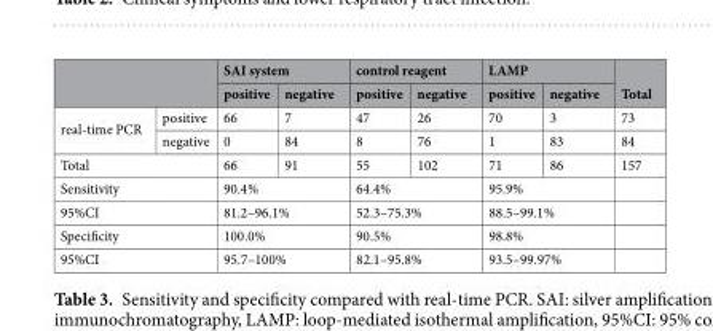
<table><thead><tr><td rowspan="2"></td><td rowspan="2"></td><td colspan="2">SAI system</td><td colspan="2">control reagent</td><td colspan="2">LAMP</td><td rowspan="2">Total</td></tr><tr><td>positive</td><td>negative</td><td>positive</td><td>negative</td><td>positive</td><td>negative</td></tr></thead><tbody><tr><td rowspan="2">real-time PCR</td><td>positive</td><td>66</td><td>7</td><td>47</td><td>26</td><td>70</td><td>3</td><td>73</td></tr><tr><td>negative</td><td>0</td><td>84</td><td>8</td><td>76</td><td>1</td><td>83</td><td>84</td></tr><tr><td colspan="2">Total</td><td>66</td><td>91</td><td>55</td><td>102</td><td>71</td><td>86</td><td>157</td></tr><tr><td colspan="2">Sensitivity</td><td colspan="2">90.4%</td><td colspan="2">64.4%</td><td colspan="2">95.9%</td><td></td></tr><tr><td colspan="2">95%CI</td><td colspan="2">81.2–96.1%</td><td colspan="2">52.3–75.3%</td><td colspan="2">88.5–99.1%</td><td></td></tr><tr><td colspan="2">Specificity</td><td colspan="2">100.0%</td><td colspan="2">90.5%</td><td colspan="2">98.8%</td><td></td></tr><tr><td colspan="2">95%CI</td><td colspan="2">95.7–100%</td><td colspan="2">82.1–95.8%</td><td colspan="2">93.5–99.97%</td><td></td></tr></tbody></table>